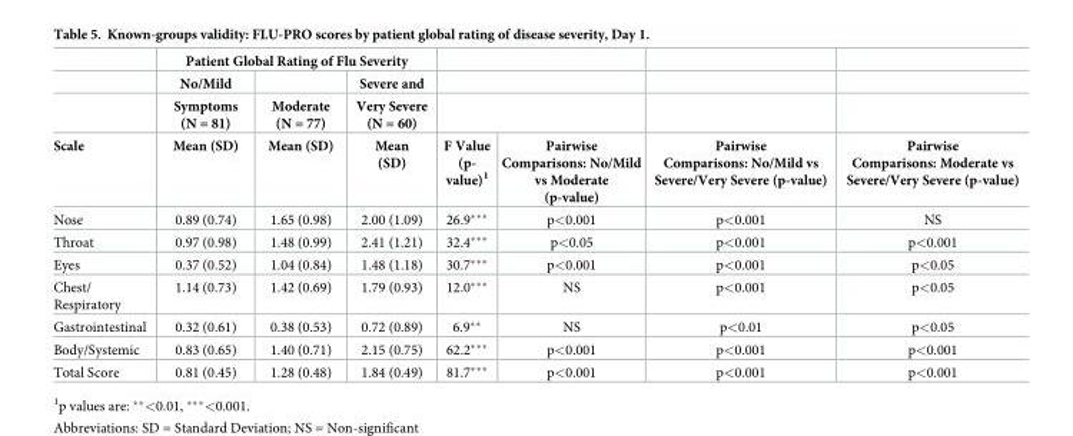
<table><thead><tr><td rowspan="4">Scale</td><td colspan="3">Patient Global Rating of Flu Severity</td><td rowspan="4">F Value (p- value)<sup>1</sup></td><td rowspan="4">Pairwise Comparisons: No/Mild vs Moderate (p-value)</td><td rowspan="4">Pairwise Comparisons: No/Mild vs Severe/Very Severe (p-value)</td><td rowspan="4">Pairwise Comparisons: Moderate vs Severe/Very Severe (p-value)</td></tr><tr><td rowspan="3">No/Mild Symptoms (N = 81) Mean (SD)</td><td rowspan="3">Moderate (N = 77) Mean (SD)</td><td rowspan="3">Severe and Very Severe (N = 60) Mean (SD)</td></tr><tr></tr><tr></tr></thead><tbody><tr><td>Nose</td><td>0.89 (0.74)</td><td>1.65 (0.98)</td><td>2.00 (1.09)</td><td>26.9***</td><td>p&lt;0.001</td><td>p&lt;0.001</td><td>NS</td></tr><tr><td>Throat</td><td>0.97 (0.98)</td><td>1.48 (0.99)</td><td>2.41 (1.21)</td><td>32.4***</td><td>p&lt;0.05</td><td>p&lt;0.001</td><td>p&lt;0.001</td></tr><tr><td>Eyes</td><td>0.37 (0.52)</td><td>1.04 (0.84)</td><td>1.48 (1.18)</td><td>30.7***</td><td>p&lt;0.001</td><td>p&lt;0.001</td><td>p&lt;0.05</td></tr><tr><td>Chest/ Respiratory</td><td>1.14 (0.73)</td><td>1.42 (0.69)</td><td>1.79 (0.93)</td><td>12.0***</td><td>NS</td><td>p&lt;0.001</td><td>p&lt;0.05</td></tr><tr><td>Gastrointestinal</td><td>0.32 (0.61)</td><td>0.38 (0.53)</td><td>0.72 (0.89)</td><td>6.9**</td><td>NS</td><td>p&lt;0.01</td><td>p&lt;0.05</td></tr><tr><td>Body/Systemic</td><td>0.83 (0.65)</td><td>1.40 (0.71)</td><td>2.15 (0.75)</td><td>62.2***</td><td>p&lt;0.001</td><td>p&lt;0.001</td><td>p&lt;0.001</td></tr><tr><td>Total Score</td><td>0.81 (0.45)</td><td>1.28 (0.48)</td><td>1.84 (0.49)</td><td>81.7***</td><td>p&lt;0.001</td><td>p&lt;0.001</td><td>p&lt;0.001</td></tr></tbody></table>